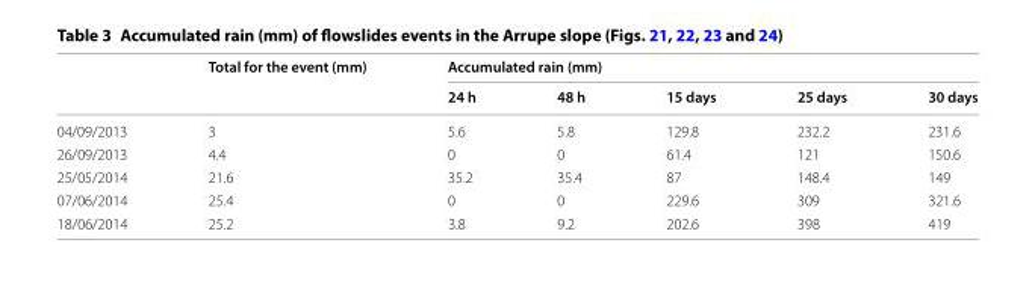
<table><thead><tr><td rowspan="2"></td><td rowspan="2">Total for the event (mm)</td><td colspan="5">Accumulated rain (mm)</td></tr><tr><td>24 h</td><td>48 h</td><td>15 days</td><td>25 days</td><td>30 days</td></tr></thead><tbody><tr><td>04/09/2013</td><td>3</td><td>5.6</td><td>5.8</td><td>129.8</td><td>232.2</td><td>231.6</td></tr><tr><td>26/09/2013</td><td>4.4</td><td>0</td><td>0</td><td>61.4</td><td>121</td><td>150.6</td></tr><tr><td>25/05/2014</td><td>21.6</td><td>35.2</td><td>35.4</td><td>87</td><td>148.4</td><td>149</td></tr><tr><td>07/06/2014</td><td>25.4</td><td>0</td><td>0</td><td>229.6</td><td>309</td><td>321.6</td></tr><tr><td>18/06/2014</td><td>25.2</td><td>3.8</td><td>9.2</td><td>202.6</td><td>398</td><td>419</td></tr></tbody></table>